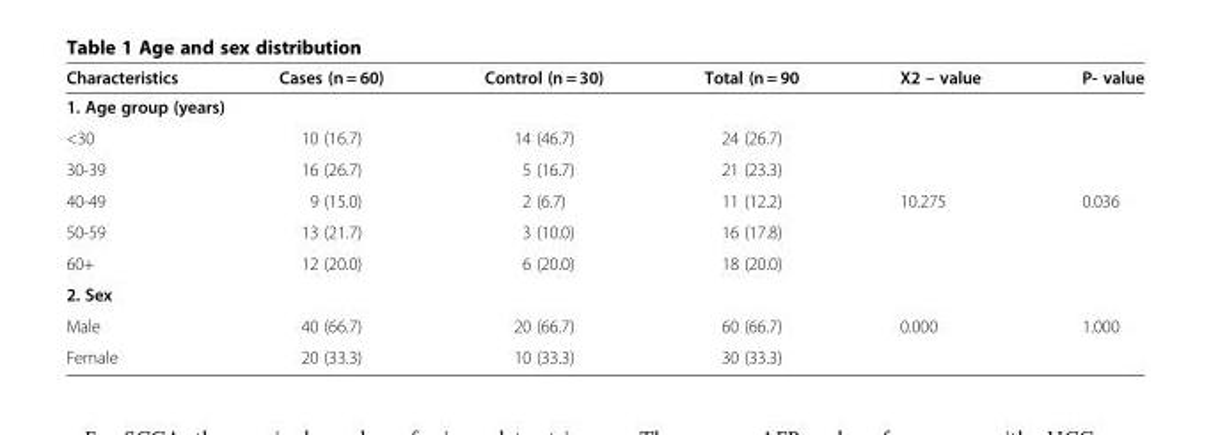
<table><thead><tr><td>Characteristics</td><td>Cases (n = 60)</td><td>Control (n = 30)</td><td>Total (n = 90</td><td>X2 – value</td><td>P- value</td></tr></thead><tbody><tr><td colspan="6">1. Age group (years)</td></tr><tr><td>&lt;30</td><td>10 (16.7)</td><td>14 (46.7)</td><td>24 (26.7)</td><td></td><td></td></tr><tr><td>30-39</td><td>16 (26.7)</td><td>5 (16.7)</td><td>21 (23.3)</td><td></td><td></td></tr><tr><td>40-49</td><td>9 (15.0)</td><td>2 (6.7)</td><td>11 (12.2)</td><td>10.275</td><td>0.036</td></tr><tr><td>50-59</td><td>13 (21.7)</td><td>3 (10.0)</td><td>16 (17.8)</td><td></td><td></td></tr><tr><td>60+</td><td>12 (20.0)</td><td>6 (20.0)</td><td>18 (20.0)</td><td></td><td></td></tr><tr><td colspan="6">2. Sex</td></tr><tr><td>Male</td><td>40 (66.7)</td><td>20 (66.7)</td><td>60 (66.7)</td><td>0.000</td><td>1.000</td></tr><tr><td>Female</td><td>20 (33.3)</td><td>10 (33.3)</td><td>30 (33.3)</td><td></td><td></td></tr></tbody></table>